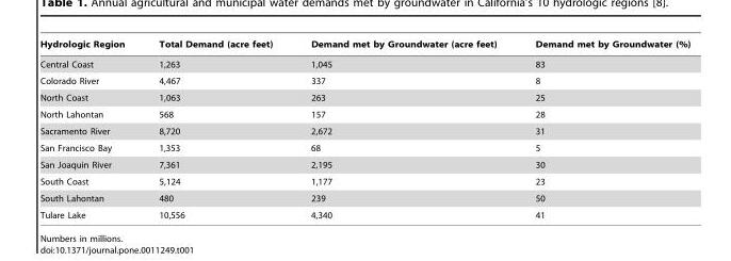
<table><thead><tr><td>Hydrologic Region</td><td>Total Demand (acre feet)</td><td>Demand met by Groundwater (acre feet)</td><td>Demand met by Groundwater (%)</td></tr></thead><tbody><tr><td>Central Coast</td><td>1,263</td><td>1,045</td><td>83</td></tr><tr><td>Colorado River</td><td>4,467</td><td>337</td><td>8</td></tr><tr><td>North Coast</td><td>1,063</td><td>263</td><td>25</td></tr><tr><td>North Lahontan</td><td>568</td><td>157</td><td>28</td></tr><tr><td>Sacramento River</td><td>8,720</td><td>2,672</td><td>31</td></tr><tr><td>San Francisco Bay</td><td>1,353</td><td>68</td><td>5</td></tr><tr><td>San Joaquin River</td><td>7,361</td><td>2,195</td><td>30</td></tr><tr><td>South Coast</td><td>5,124</td><td>1,177</td><td>23</td></tr><tr><td>South Lahontan</td><td>480</td><td>239</td><td>50</td></tr><tr><td>Tulare Lake</td><td>10,556</td><td>4,340</td><td>41</td></tr></tbody></table>